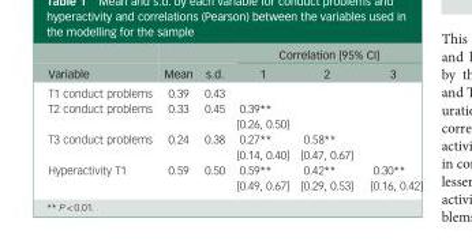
<table><thead><tr><td rowspan="2">Variable</td><td rowspan="2">Mean</td><td rowspan="2">s.d.</td><td colspan="3">Correlation [95% CI]</td></tr><tr><td>1</td><td>2</td><td>3</td></tr></thead><tbody><tr><td>T1 conduct problems</td><td>0.39</td><td>0.43</td><td></td><td></td><td></td></tr><tr><td rowspan="2">T2 conduct problems</td><td>0.33</td><td>0.45</td><td>0.39**</td><td></td><td></td></tr><tr><td></td><td></td><td>[0.26, 0.50]</td><td></td><td></td></tr><tr><td rowspan="2">T3 conduct problems</td><td>0.24</td><td>0.38</td><td>0.27**</td><td>0.58**</td><td></td></tr><tr><td></td><td></td><td>[0.14, 0.40]</td><td>[0.47, 0.67]</td><td></td></tr><tr><td rowspan="2">Hyperactivity T1</td><td>0.59</td><td>0.50</td><td>0.59**</td><td>0.42**</td><td>0.30**</td></tr><tr><td></td><td></td><td>[0.49, 0.67]</td><td>[0.29, 0.53]</td><td>[0.16, 0.42]</td></tr></tbody></table>